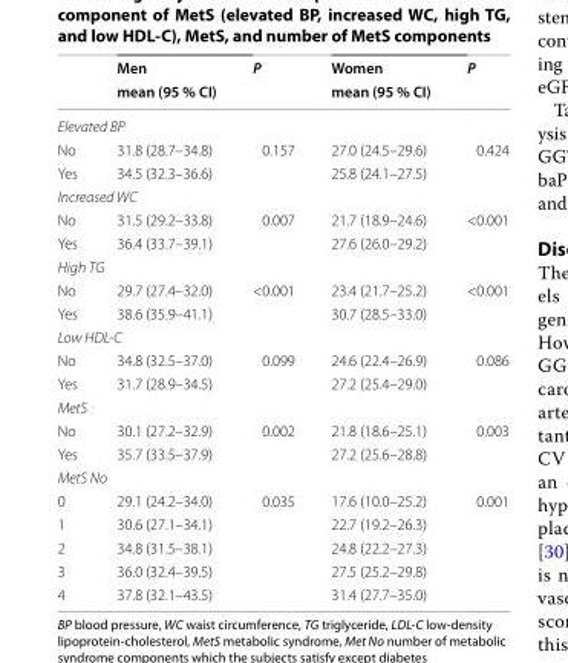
<table><thead><tr><td rowspan="2"></td><td rowspan="2">Men mean (95 % CI)</td><td rowspan="2">P</td><td rowspan="2">Women mean (95 % CI)</td><td rowspan="2">P</td></tr><tr></tr></thead><tbody><tr><td colspan="5">Elevated BP</td></tr><tr><td>No</td><td>31.8 (28.7–34.8)</td><td rowspan="2">0.157</td><td>27.0 (24.5–29.6)</td><td rowspan="2">0.424</td></tr><tr><td>Yes</td><td>34.5 (32.3–36.6)</td><td>25.8 (24.1–27.5)</td></tr><tr><td colspan="5">Increased WC</td></tr><tr><td>No</td><td>31.5 (29.2–33.8)</td><td rowspan="2">0.007</td><td>21.7 (18.9–24.6)</td><td rowspan="2">&lt;0.001</td></tr><tr><td>Yes</td><td>36.4 (33.7–39.1)</td><td>27.6 (26.0–29.2)</td></tr><tr><td colspan="5">High TG</td></tr><tr><td>No</td><td>29.7 (27.4–32.0)</td><td rowspan="2">&lt;0.001</td><td>23.4 (21.7–25.2)</td><td rowspan="2">&lt;0.001</td></tr><tr><td>Yes</td><td>38.6 (35.9–41.1)</td><td>30.7 (28.5–33.0)</td></tr><tr><td colspan="5">Low HDL-C</td></tr><tr><td>No</td><td>34.8 (32.5–37.0)</td><td rowspan="2">0.099</td><td>24.6 (22.4–26.9)</td><td rowspan="2">0.086</td></tr><tr><td>Yes</td><td>31.7 (28.9–34.5)</td><td>27.2 (25.4–29.0)</td></tr><tr><td colspan="5">MetS</td></tr><tr><td>No</td><td>30.1 (27.2–32.9)</td><td rowspan="2">0.002</td><td>21.8 (18.6–25.1)</td><td rowspan="2">0.003</td></tr><tr><td>Yes</td><td>35.7 (33.5–37.9)</td><td>27.2 (25.6–28.8)</td></tr><tr><td colspan="5">MetS No</td></tr><tr><td>0</td><td>29.1 (24.2–34.0)</td><td rowspan="5">0.035</td><td>17.6 (10.0–25.2)</td><td rowspan="5">0.001</td></tr><tr><td>1</td><td>30.6 (27.1–34.1)</td><td>22.7 (19.2–26.3)</td></tr><tr><td>2</td><td>34.8 (31.5–38.1)</td><td>24.8 (22.2–27.3)</td></tr><tr><td>3</td><td>36.0 (32.4–39.5)</td><td>27.5 (25.2–29.8)</td></tr><tr><td>4</td><td>37.8 (32.1–43.5)</td><td>31.4 (27.7–35.0)</td></tr></tbody></table>